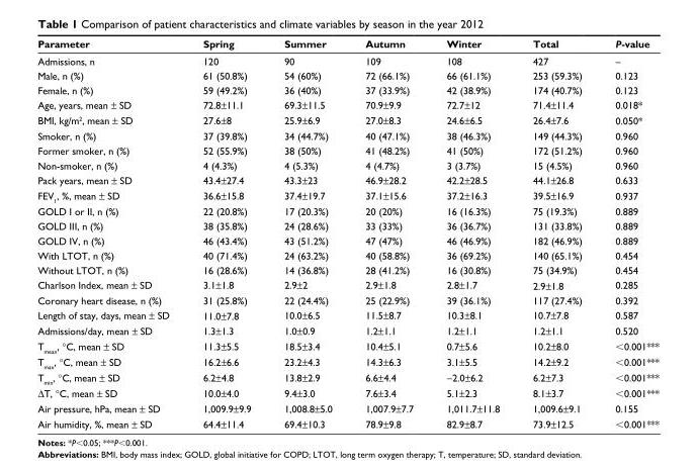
<table><thead><tr><td>Parameter</td><td>Spring</td><td>Summer</td><td>Autumn</td><td>Winter</td><td>Total</td><td>P-value</td></tr></thead><tbody><tr><td>admissions, n</td><td>120</td><td>90</td><td>109</td><td>108</td><td>427</td><td>–</td></tr><tr><td>Male, n (%)</td><td>61 (50.8%)</td><td>54 (60%)</td><td>72 (66.1%)</td><td>66 (61.1%)</td><td>253 (59.3%)</td><td>0.123</td></tr><tr><td>Female, n (%)</td><td>59 (49.2%)</td><td>36 (40%)</td><td>37 (33.9%)</td><td>42 (38.9%)</td><td>174 (40.7%)</td><td>0.123</td></tr><tr><td>age, years, mean ± sD</td><td>72.8±11.1</td><td>69.3±11.5</td><td>70.9±9.9</td><td>72.7±12</td><td>71.4±11.4</td><td>0.018*</td></tr><tr><td>BMI, kg/m<sup>2</sup>, mean ± sD</td><td>27.6±8</td><td>25.9±6.9</td><td>27.0±8.3</td><td>24.6±6.5</td><td>26.4±7.6</td><td>0.050*</td></tr><tr><td>smoker, n (%)</td><td>37 (39.8%)</td><td>34 (44.7%)</td><td>40 (47.1%)</td><td>38 (46.3%)</td><td>149 (44.3%)</td><td>0.960</td></tr><tr><td>Former smoker, n (%)</td><td>52 (55.9%)</td><td>38 (50%)</td><td>41 (48.2%)</td><td>41 (50%)</td><td>172 (51.2%)</td><td>0.960</td></tr><tr><td>non-smoker, n (%)</td><td>4 (4.3%)</td><td>4 (5.3%)</td><td>4 (4.7%)</td><td>3 (3.7%)</td><td>15 (4.5%)</td><td>0.960</td></tr><tr><td>Pack years, mean ± sD</td><td>43.4±27.4</td><td>43.3±23</td><td>46.9±28.2</td><td>42.2±28.5</td><td>44.1±26.8</td><td>0.633</td></tr><tr><td>FeV<sub>1</sub>, %, mean ± sD</td><td>36.6±15.8</td><td>37.4±19.7</td><td>37.1±15.6</td><td>37.2±16.3</td><td>39.5±16.9</td><td>0.937</td></tr><tr><td>gOlD I or II, n (%)</td><td>22 (20.8%)</td><td>17 (20.3%)</td><td>20 (20%)</td><td>16 (16.3%)</td><td>75 (19.3%)</td><td>0.889</td></tr><tr><td>gOlD III, n (%)</td><td>38 (35.8%)</td><td>24 (28.6%)</td><td>33 (33%)</td><td>36 (36.7%)</td><td>131 (33.8%)</td><td>0.889</td></tr><tr><td>gOlD IV, n (%)</td><td>46 (43.4%)</td><td>43 (51.2%)</td><td>47 (47%)</td><td>46 (46.9%)</td><td>182 (46.9%)</td><td>0.889</td></tr><tr><td>With lTOT, n (%)</td><td>40 (71.4%)</td><td>24 (63.2%)</td><td>40 (58.8%)</td><td>36 (69.2%)</td><td>140 (65.1%)</td><td>0.454</td></tr><tr><td>Without lTOT, n (%)</td><td>16 (28.6%)</td><td>14 (36.8%)</td><td>28 (41.2%)</td><td>16 (30.8%)</td><td>75 (34.9%)</td><td>0.454</td></tr><tr><td>Charlson Index, mean ± sD</td><td>3.1±1.8</td><td>2.9±2</td><td>2.9±1.8</td><td>2.8±1.7</td><td>2.9±1.8</td><td>0.285</td></tr><tr><td>Coronary heart disease, n (%)</td><td>31 (25.8%)</td><td>22 (24.4%)</td><td>25 (22.9%)</td><td>39 (36.1%)</td><td>117 (27.4%)</td><td>0.392</td></tr><tr><td>length of stay, days, mean ± sD</td><td>11.0±7.8</td><td>10.0±6.5</td><td>11.5±8.7</td><td>10.3±8.1</td><td>10.7±7.8</td><td>0.587</td></tr><tr><td>admissions/day, mean ± sD</td><td>1.3±1.3</td><td>1.0±0.9</td><td>1.2±1.1</td><td>1.2±1.1</td><td>1.2±1.1</td><td>0.520</td></tr><tr><td>T<sub>mean</sub>, °C, mean ± sD</td><td>11.3±5.5</td><td>18.5±3.4</td><td>10.4±5.1</td><td>0.7±5.6</td><td>10.2±8.0</td><td>&lt;0.001***</td></tr><tr><td>T<sub>max</sub>, °C, mean ± sD</td><td>16.2±6.6</td><td>23.2±4.3</td><td>14.3±6.3</td><td>3.1±5.5</td><td>14.2±9.2</td><td>&lt;0.001***</td></tr><tr><td>T<sub>min</sub>, °C, mean ± sD</td><td>6.2±4.8</td><td>13.8±2.9</td><td>6.6±4.4</td><td>−2.0±6.2</td><td>6.2±7.3</td><td>&lt;0.001***</td></tr><tr><td>ΔT, °C, mean ± sD</td><td>10.0±4.0</td><td>9.4±3.0</td><td>7.6±3.4</td><td>5.1±2.3</td><td>8.1±3.7</td><td>&lt;0.001***</td></tr><tr><td>air pressure, hPa, mean ± sD</td><td>1,009.9±9.9</td><td>1,008.8±5.0</td><td>1,007.9±7.7</td><td>1,011.7±11.8</td><td>1,009.6±9.1</td><td>0.155</td></tr><tr><td>air humidity, %, mean ± sD</td><td>64.4±11.4</td><td>69.4±10.3</td><td>78.9±9.8</td><td>82.9±8.7</td><td>73.9±12.5</td><td>&lt;0.001***</td></tr></tbody></table>